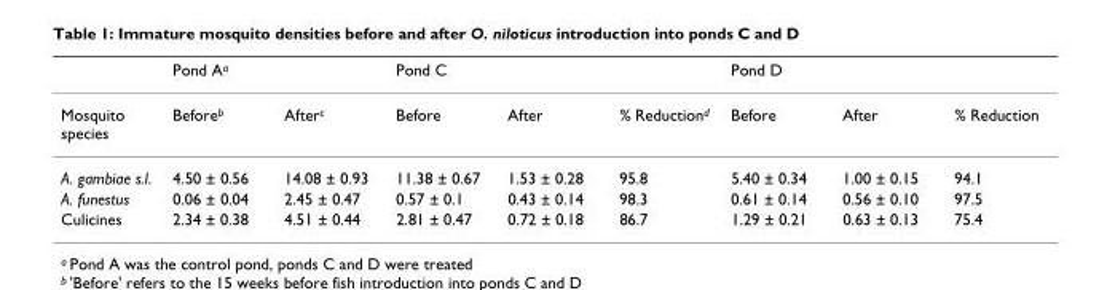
<table><thead><tr><td></td><td>Pond A<sup>a</sup></td><td></td><td>Pond C</td><td></td><td></td><td>Pond D</td><td></td><td></td></tr></thead><tbody><tr><td>Mosquito species</td><td>Before<sup>b</sup></td><td>After<sup>c</sup></td><td>Before</td><td>After</td><td>% Reduction<sup>d</sup></td><td>Before</td><td>After</td><td>% Reduction</td></tr><tr><td>A. gambiae s.l.</td><td>4.50 ± 0.56</td><td>14.08 ± 0.93</td><td>11.38 ± 0.67</td><td>1.53 ± 0.28</td><td>95.8</td><td>5.40 ± 0.34</td><td>1.00 ± 0.15</td><td>94.1</td></tr><tr><td>A. funestus</td><td>0.06 ± 0.04</td><td>2.45 ± 0.47</td><td>0.57 ± 0.1</td><td>0.43 ± 0.14</td><td>98.3</td><td>0.61 ± 0.14</td><td>0.56 ± 0.10</td><td>97.5</td></tr><tr><td>Culicines</td><td>2.34 ± 0.38</td><td>4.51 ± 0.44</td><td>2.81 ± 0.47</td><td>0.72 ± 0.18</td><td>86.7</td><td>1.29 ± 0.21</td><td>0.63 ± 0.13</td><td>75.4</td></tr></tbody></table>